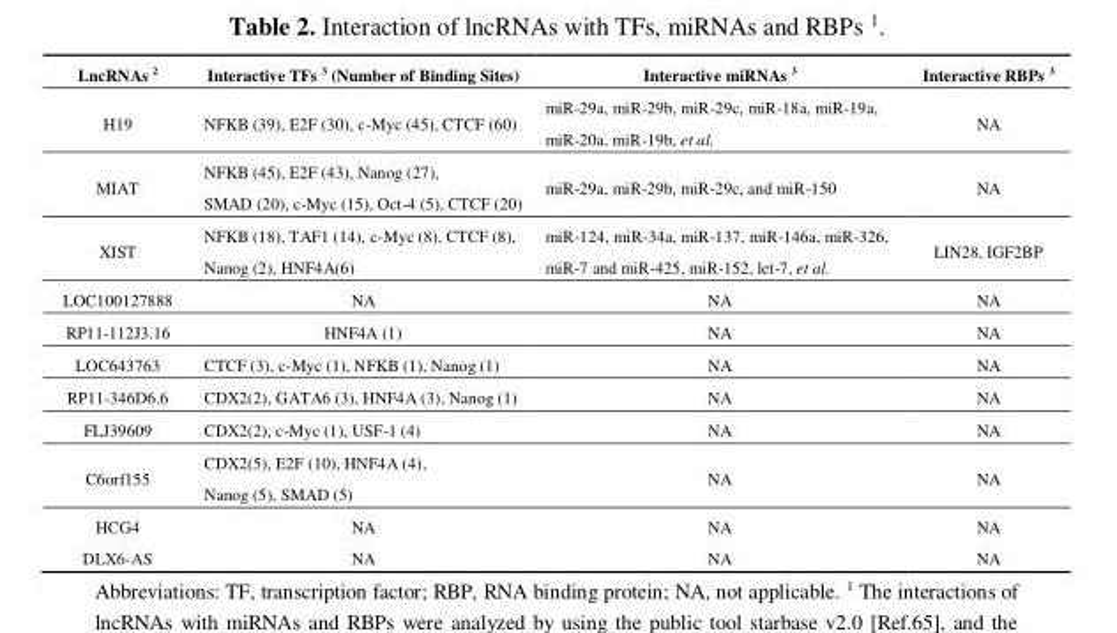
<table><thead><tr><td>LncRNAs <sup>2</sup></td><td>Interactive TFs <sup>3</sup> (Number of Binding Sites)</td><td>Interactive miRNAs <sup>3</sup></td><td>Interactive RBPs <sup>3</sup></td></tr></thead><tbody><tr><td>H19</td><td>NFKB (39), E2F (30), c-Myc (45), CTCF (60)</td><td>miR-29a, miR-29b, miR-29c, miR-18a, miR-19a, miR-20a, miR-19b, et al.</td><td>NA</td></tr><tr><td>MIAT</td><td>NFKB (45), E2F (43), Nanog (27), SMAD (20), c-Myc (15), Oct-4 (5), CTCF (20)</td><td>miR-29a, miR-29b, miR-29c, and miR-150</td><td>NA</td></tr><tr><td>XIST</td><td>NFKB (18), TAF1 (14), c-Myc (8), CTCF (8), Nanog (2), HNF4A(6)</td><td>miR-124, miR-34a, miR-137, miR-146a, miR-326, miR-7 and miR-425, miR-152, let-7, et al.</td><td>LIN28, IGF2BP</td></tr><tr><td>LOC100127888</td><td>NA</td><td>NA</td><td>NA</td></tr><tr><td>RP11-112J3.16</td><td>HNF4A (1)</td><td>NA</td><td>NA</td></tr><tr><td>LOC643763</td><td>CTCF (3), c-Myc (1), NFKB (1), Nanog (1)</td><td>NA</td><td>NA</td></tr><tr><td>RP11-346D6.6</td><td>CDX2(2), GATA6 (3), HNF4A (3), Nanog (1)</td><td>NA</td><td>NA</td></tr><tr><td>FLJ39609</td><td>CDX2(2), c-Myc (1), USF-1 (4)</td><td>NA</td><td>NA</td></tr><tr><td>C6orf155</td><td>CDX2(5), E2F (10), HNF4A (4), Nanog (5), SMAD (5)</td><td>NA</td><td>NA</td></tr><tr><td>HCG4</td><td>NA</td><td>NA</td><td>NA</td></tr><tr><td>DLX6-AS</td><td>NA</td><td>NA</td><td>NA</td></tr></tbody></table>